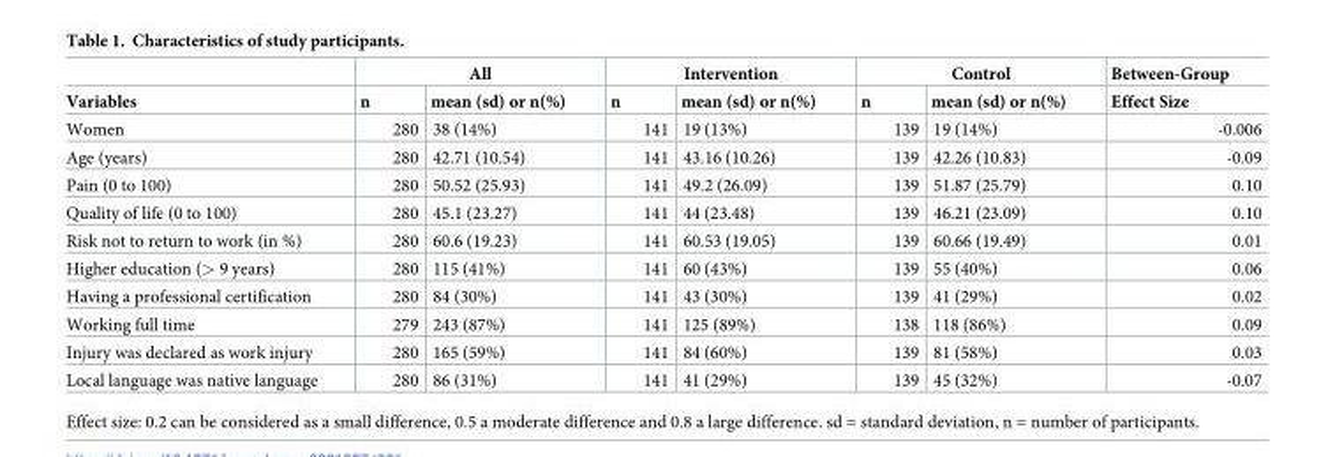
<table><thead><tr><td rowspan="2">Variables</td><td colspan="2">All</td><td colspan="2">Intervention</td><td colspan="2">Control</td><td rowspan="2">Between-Group Effect Size</td></tr><tr><td>n</td><td>mean (sd) or n(%)</td><td>n</td><td>mean (sd) or n(%)</td><td>n</td><td>mean (sd) or n(%)</td></tr></thead><tbody><tr><td>Women</td><td>280</td><td>38 (14%)</td><td>141</td><td>19 (13%)</td><td>139</td><td>19 (14%)</td><td>-0.006</td></tr><tr><td>Age (years)</td><td>280</td><td>42.71 (10.54)</td><td>141</td><td>43.16 (10.26)</td><td>139</td><td>42.26 (10.83)</td><td>-0.09</td></tr><tr><td>Pain (0 to 100)</td><td>280</td><td>50.52 (25.93)</td><td>141</td><td>49.2 (26.09)</td><td>139</td><td>51.87 (25.79)</td><td>0.10</td></tr><tr><td>Quality of life (0 to 100)</td><td>280</td><td>45.1 (23.27)</td><td>141</td><td>44 (23.48)</td><td>139</td><td>46.21 (23.09)</td><td>0.10</td></tr><tr><td>Risk not to return to work (in %)</td><td>280</td><td>60.6 (19.23)</td><td>141</td><td>60.53 (19.05)</td><td>139</td><td>60.66 (19.49)</td><td>0.01</td></tr><tr><td>Higher education (&gt; 9 years)</td><td>280</td><td>115 (41%)</td><td>141</td><td>60 (43%)</td><td>139</td><td>55 (40%)</td><td>0.06</td></tr><tr><td>Having a professional certification</td><td>280</td><td>84 (30%)</td><td>141</td><td>43 (30%)</td><td>139</td><td>41 (29%)</td><td>0.02</td></tr><tr><td>Working full time</td><td>279</td><td>243 (87%)</td><td>141</td><td>125 (89%)</td><td>138</td><td>118 (86%)</td><td>0.09</td></tr><tr><td>Injury was declared as work injury</td><td>280</td><td>165 (59%)</td><td>141</td><td>84 (60%)</td><td>139</td><td>81 (58%)</td><td>0.03</td></tr><tr><td>Local language was native language</td><td>280</td><td>86 (31%)</td><td>141</td><td>41 (29%)</td><td>139</td><td>45 (32%)</td><td>-0.07</td></tr></tbody></table>